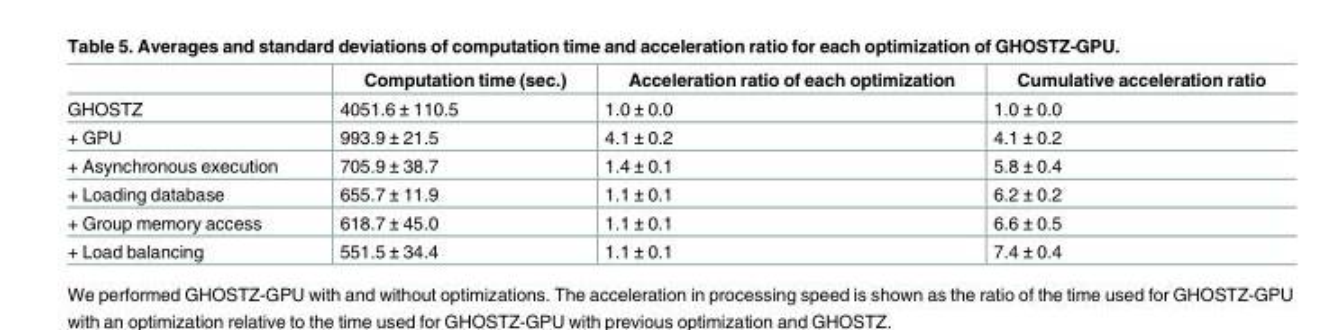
<table><thead><tr><td></td><td>Computation time (sec.)</td><td>Acceleration ratio of each optimization</td><td>Cumulative acceleration ratio</td></tr></thead><tbody><tr><td>GHOSTZ</td><td>4051.6 ± 110.5</td><td>1.0 ± 0.0</td><td>1.0 ± 0.0</td></tr><tr><td>+ GPU</td><td>993.9 ± 21.5</td><td>4.1 ± 0.2</td><td>4.1 ± 0.2</td></tr><tr><td>+ Asynchronous execution</td><td>705.9 ± 38.7</td><td>1.4 ± 0.1</td><td>5.8 ± 0.4</td></tr><tr><td>+ Loading database</td><td>655.7 ± 11.9</td><td>1.1 ± 0.1</td><td>6.2 ± 0.2</td></tr><tr><td>+ Group memory access</td><td>618.7 ± 45.0</td><td>1.1 ± 0.1</td><td>6.6 ± 0.5</td></tr><tr><td>+ Load balancing</td><td>551.5 ± 34.4</td><td>1.1 ± 0.1</td><td>7.4 ± 0.4</td></tr></tbody></table>